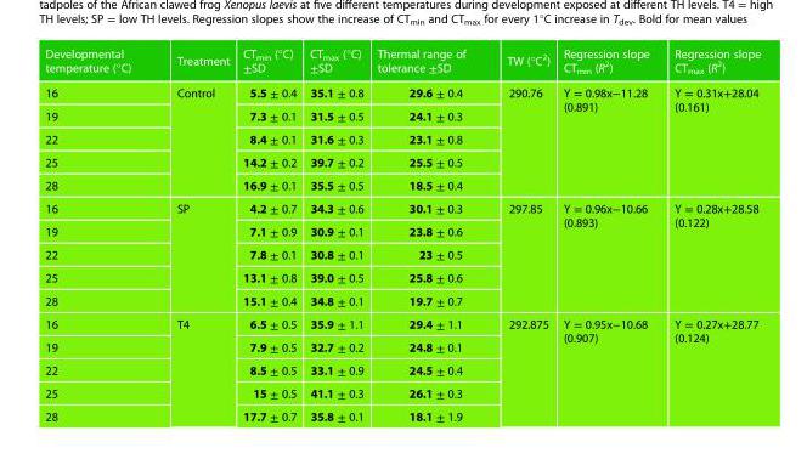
<table><thead><tr><td>Developmental temperature (°C)</td><td>Treatment</td><td>CT<sub>min</sub> (°C) ±SD</td><td>CT<sub>max</sub> (°C) ±SD</td><td>Thermal range of tolerance ±SD</td><td>TW (°C<sup>2</sup>)</td><td>Regression slope CT<sub>min</sub> (R<sup>2</sup>)</td><td>Regression slope CT<sub>max</sub> (R<sup>2</sup>)</td></tr></thead><tbody><tr><td>16</td><td rowspan="5">Control</td><td>5.5 ± 0.4</td><td>35.1 ± 0.8</td><td>29.6 ± 0.4</td><td rowspan="5">290.76</td><td rowspan="5">Y = 0.98x−11.28 (0.891)</td><td rowspan="5">Y = 0.31x+28.04 (0.161)</td></tr><tr><td>19</td><td>7.3 ± 0.1</td><td>31.5 ± 0.5</td><td>24.1 ± 0.3</td></tr><tr><td>22</td><td>8.4 ± 0.1</td><td>31.6 ± 0.3</td><td>23.1 ± 0.8</td></tr><tr><td>25</td><td>14.2 ± 0.2</td><td>39.7 ± 0.2</td><td>25.5 ± 0.5</td></tr><tr><td>28</td><td>16.9 ± 0.1</td><td>35.5 ± 0.5</td><td>18.5 ± 0.4</td></tr><tr><td>16</td><td rowspan="5">SP</td><td>4.2 ± 0.7</td><td>34.3 ± 0.6</td><td>30.1 ± 0.3</td><td rowspan="5">297.85</td><td rowspan="5">Y = 0.96x−10.66 (0.893)</td><td rowspan="5">Y = 0.28x+28.58 (0.122)</td></tr><tr><td>19</td><td>7.1 ± 0.9</td><td>30.9 ± 0.1</td><td>23.8 ± 0.6</td></tr><tr><td>22</td><td>7.8 ± 0.1</td><td>30.8 ± 0.1</td><td>23 ± 0.5</td></tr><tr><td>25</td><td>13.1 ± 0.8</td><td>39.0 ± 0.5</td><td>25.8 ± 0.6</td></tr><tr><td>28</td><td>15.1 ± 0.4</td><td>34.8 ± 0.1</td><td>19.7 ± 0.7</td></tr><tr><td>16</td><td rowspan="5">T4</td><td>6.5 ± 0.5</td><td>35.9 ± 1.1</td><td>29.4 ± 1.1</td><td rowspan="5">292.875</td><td rowspan="5">Y = 0.95x−10.68 (0.907)</td><td rowspan="5">Y = 0.27x+28.77 (0.124)</td></tr><tr><td>19</td><td>7.9 ± 0.5</td><td>32.7 ± 0.2</td><td>24.8 ± 0.1</td></tr><tr><td>22</td><td>8.5 ± 0.5</td><td>33.1 ± 0.9</td><td>24.5 ± 0.4</td></tr><tr><td>25</td><td>15 ± 0.5</td><td>41.1 ± 0.3</td><td>26.1 ± 0.3</td></tr><tr><td>28</td><td>17.7 ± 0.7</td><td>35.8 ± 0.1</td><td>18.1 ± 1.9</td></tr></tbody></table>